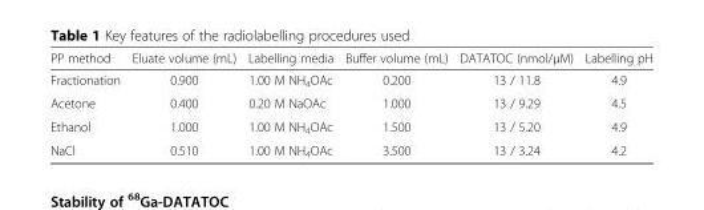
<table><thead><tr><td>PP method</td><td>Eluate volume (mL)</td><td>Labelling media</td><td>Buffer volume (mL)</td><td>DATATOC (nmol/μM)</td><td>Labelling pH</td></tr></thead><tbody><tr><td>Fractionation</td><td>0.900</td><td>1.00 M NH<sub>4</sub>OAc</td><td>0.200</td><td>13 / 11.8</td><td>4.9</td></tr><tr><td>Acetone</td><td>0.400</td><td>0.20 M NaOAc</td><td>1.000</td><td>13 / 9.29</td><td>4.5</td></tr><tr><td>Ethanol</td><td>1.000</td><td>1.00 M NH<sub>4</sub>OAc</td><td>1.500</td><td>13 / 5.20</td><td>4.9</td></tr><tr><td>NaCl</td><td>0.510</td><td>1.00 M NH<sub>4</sub>OAc</td><td>3.500</td><td>13 / 3.24</td><td>4.2</td></tr></tbody></table>